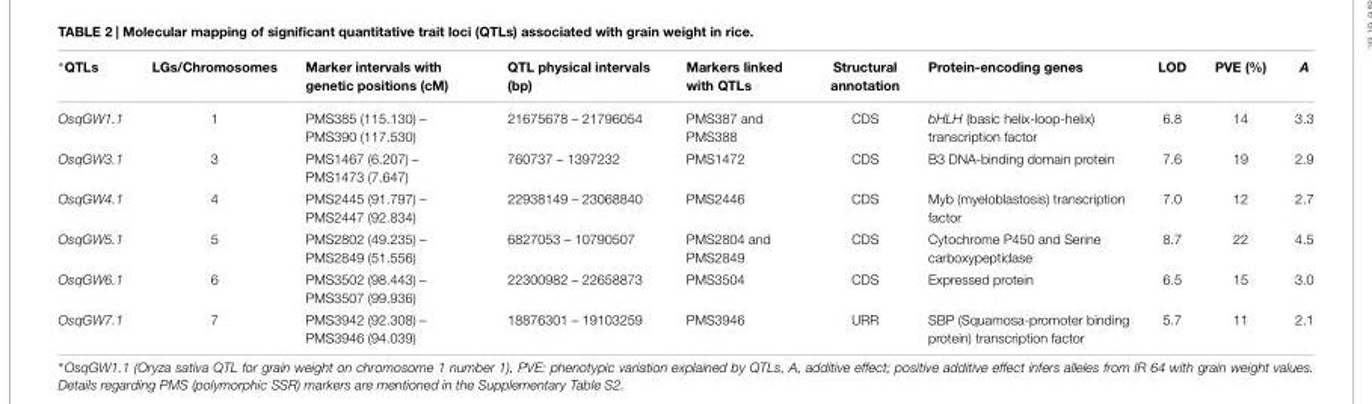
<table><thead><tr><td>∗QTLs</td><td>LGs/Chromosomes</td><td>Marker intervals with genetic positions (cM)</td><td>QTL physical intervals (bp)</td><td>Markers linked with QTLs</td><td>Structural annotation</td><td>Protein-encoding genes</td><td>LOD</td><td>PVE (%)</td><td>A</td></tr></thead><tbody><tr><td>OsqGW1.1</td><td>1</td><td>PMS385 (115.130) – PMS390 (117.530)</td><td>21675678 – 21796054</td><td>PMS387 and PMS388</td><td>CDS</td><td>bHLH (basic helix-loop-helix) transcription factor</td><td>6.8</td><td>14</td><td>3.3</td></tr><tr><td>OsqGW3.1</td><td>3</td><td>PMS1467 (6.207) – PMS1473 (7.647)</td><td>760737 – 1397232</td><td>PMS1472</td><td>CDS</td><td>B3 DNA-binding domain protein</td><td>7.6</td><td>19</td><td>2.9</td></tr><tr><td>OsqGW4.1</td><td>4</td><td>PMS2445 (91.797) – PMS2447 (92.834)</td><td>22938149 – 23068840</td><td>PMS2446</td><td>CDS</td><td>Myb (myeloblastosis) transcription factor</td><td>7.0</td><td>12</td><td>2.7</td></tr><tr><td>OsqGW5.1</td><td>5</td><td>PMS2802 (49.235) – PMS2849 (51.556)</td><td>6827053 – 10790507</td><td>PMS2804 and PMS2849</td><td>CDS</td><td>Cytochrome P450 and Serine carboxypeptidase</td><td>8.7</td><td>22</td><td>4.5</td></tr><tr><td>OsqGW6.1</td><td>6</td><td>PMS3502 (98.443) – PMS3507 (99.936)</td><td>22300982 – 22658873</td><td>PMS3504</td><td>CDS</td><td>Expressed protein</td><td>6.5</td><td>15</td><td>3.0</td></tr><tr><td>OsqGW7.1</td><td>7</td><td>PMS3942 (92.308) – PMS3946 (94.039)</td><td>18876301 – 19103259</td><td>PMS3946</td><td>URR</td><td>SBP (Squamosa-promoter binding protein) transcription factor</td><td>5.7</td><td>11</td><td>2.1</td></tr></tbody></table>